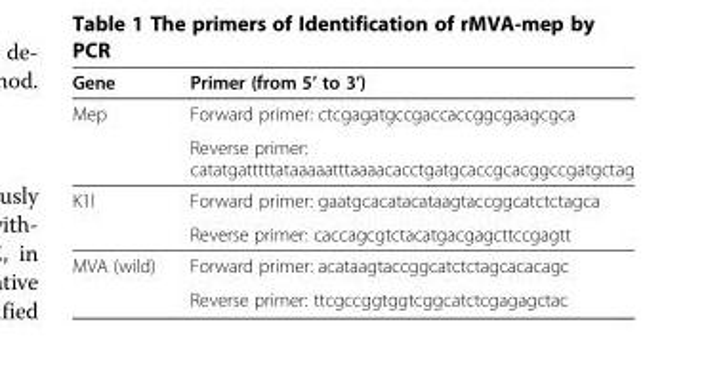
<table><thead><tr><td>Gene</td><td>Primer (from 5’ to 3’)</td></tr></thead><tbody><tr><td rowspan="2">Mep</td><td>Forward primer: ctcgagatgccgaccaccggcgaagcgca</td></tr><tr><td>Reverse primer: catatgatttttataaaaatttaaaacacctgatgcaccgcacggccgatgctag</td></tr><tr><td rowspan="2">K1l</td><td>Forward primer: gaatgcacatacataagtaccggcatctctagca</td></tr><tr><td>Reverse primer: caccagcgtctacatgacgagcttccgagtt</td></tr><tr><td rowspan="2">MVA (wild)</td><td>Forward primer: acataagtaccggcatctctagcacacagc</td></tr><tr><td>Reverse primer: ttcgccggtggtcggcatctcgagagctac</td></tr></tbody></table>